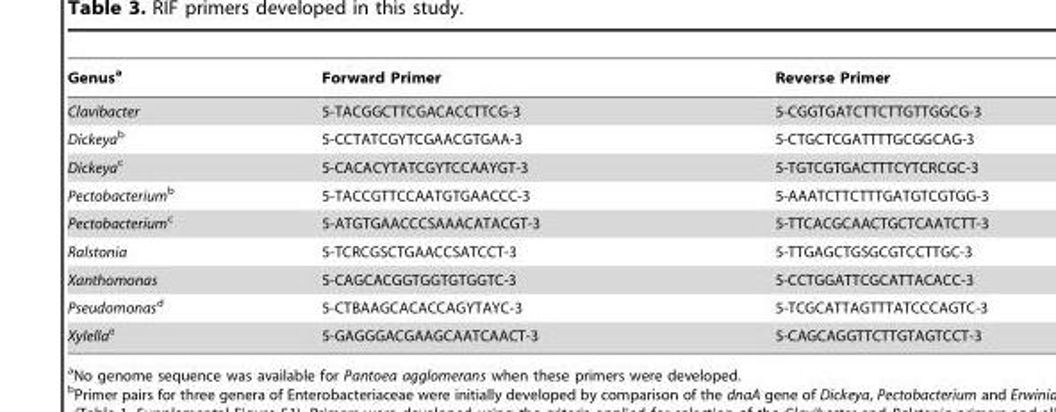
<table><thead><tr><td>Genus<sup>a</sup></td><td>Forward Primer</td><td>Reverse Primer</td></tr></thead><tbody><tr><td>Clavibacter</td><td>5-TACGGCTTCGACACCTTCG-3</td><td>5-CGGTGATCTTCTTGTTGGCG-3</td></tr><tr><td>Dickeyab</td><td>5-CCTATCGYTCGAACGTGAA-3</td><td>5-CTGCTCGATTTTGCGGCAG-3</td></tr><tr><td>Dickeyac</td><td>5-CACACYTATCGYTCCAAYGT-3</td><td>5-TGTCGTGACTTTCYTCRCGC-3</td></tr><tr><td>Pectobacteriumb</td><td>5-TACCGTTCCAATGTGAACCC-3</td><td>5-AAATCTTCTTTGATGTCGTGG-3</td></tr><tr><td>Pectobacteriumc</td><td>5-ATGTGAACCCSAAACATACGT-3</td><td>5-TTCACGCAACTGCTCAATCTT-3</td></tr><tr><td>Ralstonia</td><td>5-TCRCGSCTGAACCSATCCT-3</td><td>5-TTGAGCTGSGCGTCCTTGC-3</td></tr><tr><td>Xanthomonas</td><td>5-CAGCACGGTGGTGTGGTC-3</td><td>5-CCTGGATTCGCATTACACC-3</td></tr><tr><td>Pseudomonasd</td><td>5-CTBAAGCACACCAGYTAYC-3</td><td>5-TCGCATTAGTTTATCCCAGTC-3</td></tr><tr><td>Xylellae</td><td>5-GAGGGACGAAGCAATCAACT-3</td><td>5-CAGCAGGTTCTTGTAGTCCT-3</td></tr></tbody></table>